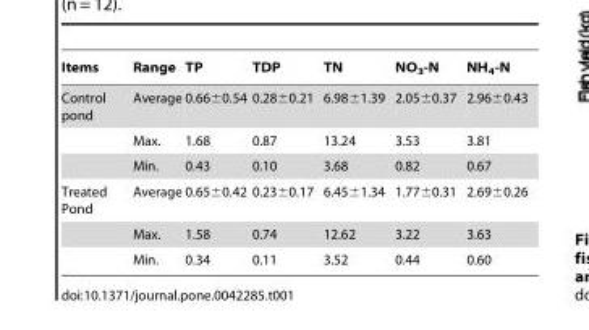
<table><thead><tr><td>Items</td><td>Range</td><td>TP</td><td>TDP</td><td>TN</td><td>NO<sub>3</sub>-N</td><td>NH<sub>4</sub>-N</td></tr></thead><tbody><tr><td rowspan="3">Control pond</td><td>Average</td><td>0.66±0.54</td><td>0.28±0.21</td><td>6.98±1.39</td><td>2.05±0.37</td><td>2.96±0.43</td></tr><tr><td>Max.</td><td>1.68</td><td>0.87</td><td>13.24</td><td>3.53</td><td>3.81</td></tr><tr><td>Min.</td><td>0.43</td><td>0.10</td><td>3.68</td><td>0.82</td><td>0.67</td></tr><tr><td rowspan="3">Treated Pond</td><td>Average</td><td>0.65±0.42</td><td>0.23±0.17</td><td>6.45±1.34</td><td>1.77±0.31</td><td>2.69±0.26</td></tr><tr><td>Max.</td><td>1.58</td><td>0.74</td><td>12.62</td><td>3.22</td><td>3.63</td></tr><tr><td>Min.</td><td>0.34</td><td>0.11</td><td>3.52</td><td>0.44</td><td>0.60</td></tr></tbody></table>